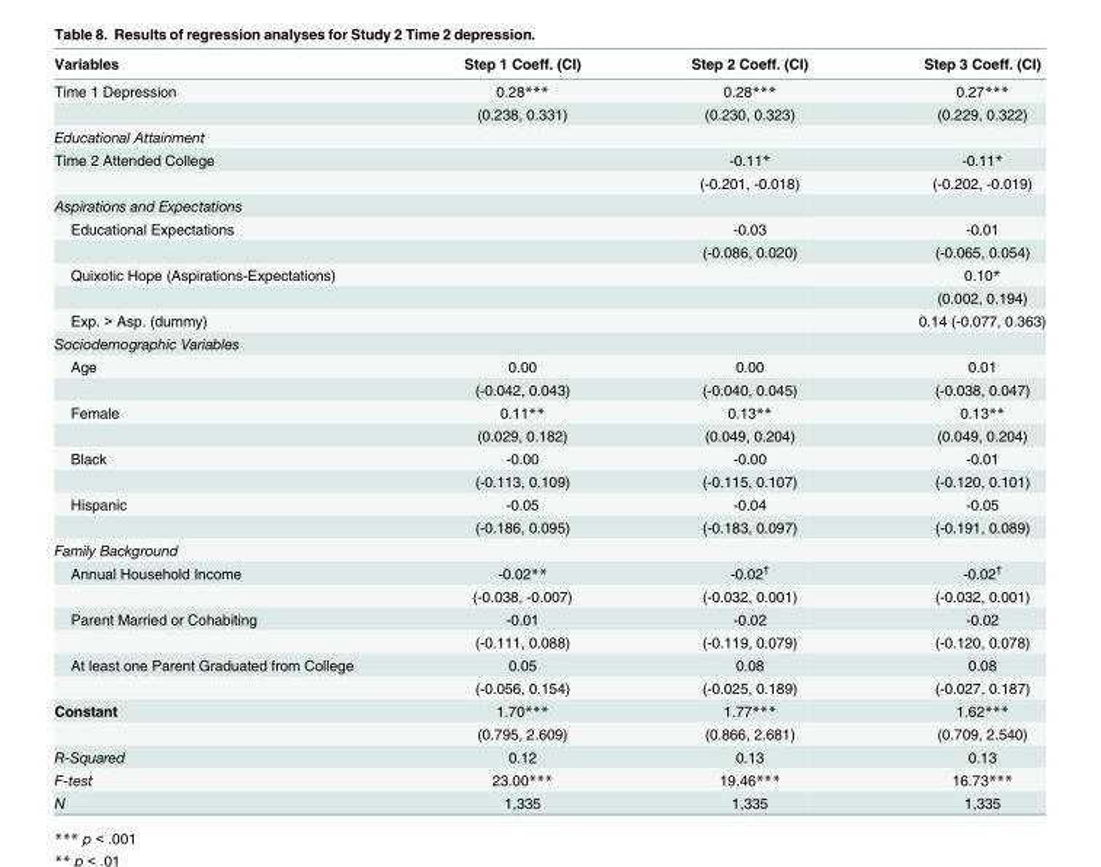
<table><thead><tr><td>Variables</td><td>Step 1 Coeff. (CI)</td><td>Step 2 Coeff. (CI)</td><td>Step 3 Coeff. (CI)</td></tr></thead><tbody><tr><td rowspan="2">Time 1 Depression</td><td>0.28***</td><td>0.28***</td><td>0.27***</td></tr><tr><td>(0.238, 0.331)</td><td>(0.230, 0.323)</td><td>(0.229, 0.322)</td></tr><tr><td colspan="4">Educational Attainment</td></tr><tr><td rowspan="2">Time 2 Attended College</td><td></td><td>-0.11*</td><td>-0.11*</td></tr><tr><td></td><td>(-0.201, -0.018)</td><td>(-0.202, -0.019)</td></tr><tr><td colspan="4">Aspirations and Expectations</td></tr><tr><td rowspan="2">Educational Expectations</td><td></td><td>-0.03</td><td>-0.01</td></tr><tr><td></td><td>(-0.086, 0.020)</td><td>(-0.065, 0.054)</td></tr><tr><td rowspan="2">Quixotic Hope (Aspirations-Expectations)</td><td></td><td></td><td>0.10*</td></tr><tr><td></td><td></td><td>(0.002, 0.194)</td></tr><tr><td>Exp. &gt; Asp. (dummy)</td><td></td><td></td><td>0.14 (-0.077, 0.363)</td></tr><tr><td colspan="4">Sociodemographic Variables</td></tr><tr><td rowspan="2">Age</td><td>0.00</td><td>0.00</td><td>0.01</td></tr><tr><td>(-0.042, 0.043)</td><td>(-0.040, 0.045)</td><td>(-0.038, 0.047)</td></tr><tr><td rowspan="2">Female</td><td>0.11**</td><td>0.13**</td><td>0.13**</td></tr><tr><td>(0.029, 0.182)</td><td>(0.049, 0.204)</td><td>(0.049, 0.204)</td></tr><tr><td rowspan="2">Black</td><td>-0.00</td><td>-0.00</td><td>-0.01</td></tr><tr><td>(-0.113, 0.109)</td><td>(-0.115, 0.107)</td><td>(-0.120, 0.101)</td></tr><tr><td rowspan="2">Hispanic</td><td>-0.05</td><td>-0.04</td><td>-0.05</td></tr><tr><td>(-0.186, 0.095)</td><td>(-0.183, 0.097)</td><td>(-0.191, 0.089)</td></tr><tr><td colspan="4">Family Background</td></tr><tr><td rowspan="2">Annual Household Income</td><td>-0.02**</td><td>-0.02<sup>†</sup></td><td>-0.02<sup>†</sup></td></tr><tr><td>(-0.038, -0.007)</td><td>(-0.032, 0.001)</td><td>(-0.032, 0.001)</td></tr><tr><td rowspan="2">Parent Married or Cohabiting</td><td>-0.01</td><td>-0.02</td><td>-0.02</td></tr><tr><td>(-0.111, 0.088)</td><td>(-0.119, 0.079)</td><td>(-0.120, 0.078)</td></tr><tr><td rowspan="2">At least one Parent Graduated from College</td><td>0.05</td><td>0.08</td><td>0.08</td></tr><tr><td>(-0.056, 0.154)</td><td>(-0.025, 0.189)</td><td>(-0.027, 0.187)</td></tr><tr><td rowspan="2">Constant</td><td>1.70***</td><td>1.77***</td><td>1.62***</td></tr><tr><td>(0.795, 2.609)</td><td>(0.866, 2.681)</td><td>(0.709, 2.540)</td></tr><tr><td>R-Squared</td><td>0.12</td><td>0.13</td><td>0.13</td></tr><tr><td>F-test</td><td>23.00***</td><td>19.46***</td><td>16.73***</td></tr><tr><td>N</td><td>1,335</td><td>1,335</td><td>1,335</td></tr></tbody></table>